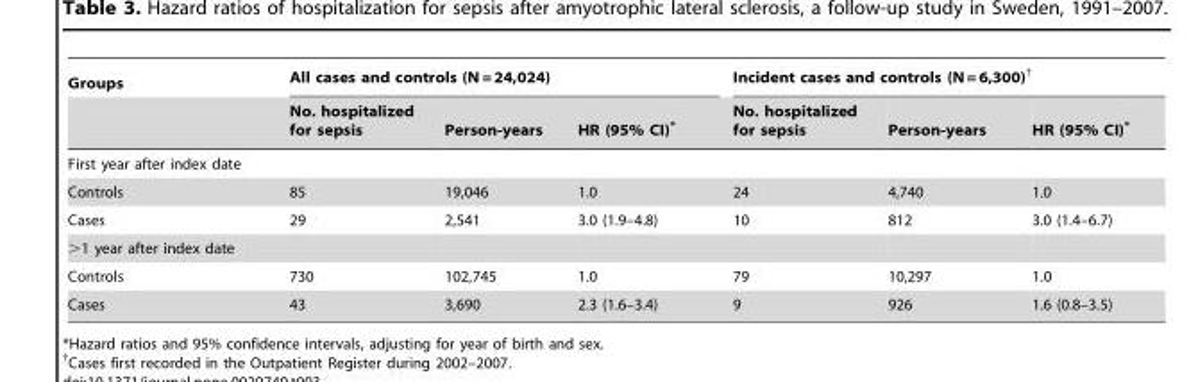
<table><thead><tr><td rowspan="2">Groups</td><td colspan="3">All cases and controls (N = 24,024)</td><td colspan="3">Incident cases and controls (N = 6,300)†</td></tr><tr><td>No. hospitalized for sepsis</td><td>Person-years</td><td>HR (95% CI)*</td><td>No. hospitalized for sepsis</td><td>Person-years</td><td>HR (95% CI)*</td></tr></thead><tbody><tr><td colspan="7">First year after index date</td></tr><tr><td>Controls</td><td>85</td><td>19,046</td><td>1.0</td><td>24</td><td>4,740</td><td>1.0</td></tr><tr><td>Cases</td><td>29</td><td>2,541</td><td>3.0 (1.9–4.8)</td><td>10</td><td>812</td><td>3.0 (1.4–6.7)</td></tr><tr><td colspan="7">&gt;1 year after index date</td></tr><tr><td>Controls</td><td>730</td><td>102,745</td><td>1.0</td><td>79</td><td>10,297</td><td>1.0</td></tr><tr><td>Cases</td><td>43</td><td>3,690</td><td>2.3 (1.6–3.4)</td><td>9</td><td>926</td><td>1.6 (0.8–3.5)</td></tr></tbody></table>